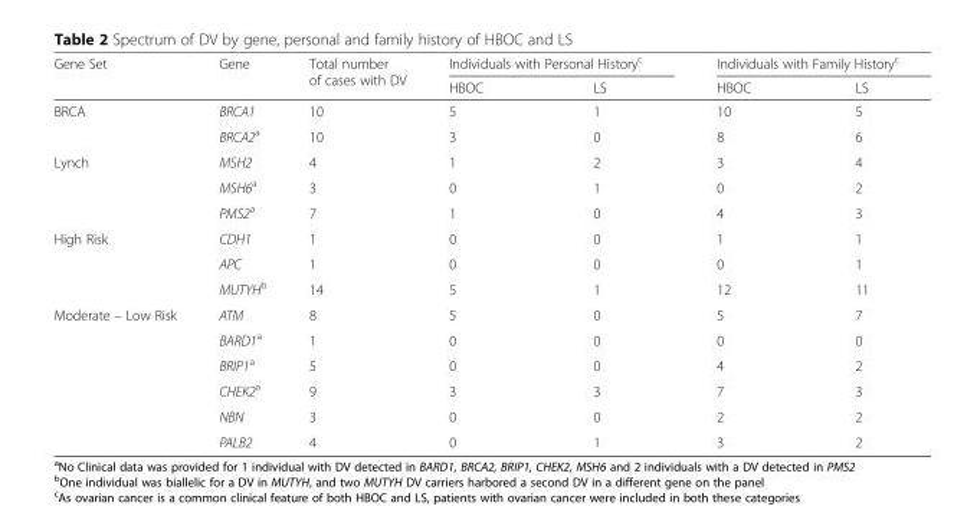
<table><thead><tr><td rowspan="2">Gene Set</td><td rowspan="2">Gene</td><td rowspan="2">Total number of cases with DV</td><td colspan="2">Individuals with Personal History<sup>c</sup></td><td colspan="2">Individuals with Family History<sup>c</sup></td></tr><tr><td>HBOC</td><td>LS</td><td>HBOC</td><td>LS</td></tr></thead><tbody><tr><td rowspan="2">BRCA</td><td>BRCA1</td><td>10</td><td>5</td><td>1</td><td>10</td><td>5</td></tr><tr><td>BRCA2<sup>a</sup></td><td>10</td><td>3</td><td>0</td><td>8</td><td>6</td></tr><tr><td rowspan="3">Lynch</td><td>MSH2</td><td>4</td><td>1</td><td>2</td><td>3</td><td>4</td></tr><tr><td>MSH6<sup>a</sup></td><td>3</td><td>0</td><td>1</td><td>0</td><td>2</td></tr><tr><td>PMS2<sup>a</sup></td><td>7</td><td>1</td><td>0</td><td>4</td><td>3</td></tr><tr><td rowspan="3">High Risk</td><td>CDH1</td><td>1</td><td>0</td><td>0</td><td>1</td><td>1</td></tr><tr><td>APC</td><td>1</td><td>0</td><td>0</td><td>0</td><td>1</td></tr><tr><td>MUTYH<sup>b</sup></td><td>14</td><td>5</td><td>1</td><td>12</td><td>11</td></tr><tr><td rowspan="6">Moderate – Low Risk</td><td>ATM</td><td>8</td><td>5</td><td>0</td><td>5</td><td>7</td></tr><tr><td>BARD1<sup>a</sup></td><td>1</td><td>0</td><td>0</td><td>0</td><td>0</td></tr><tr><td>BRIP1<sup>a</sup></td><td>5</td><td>0</td><td>0</td><td>4</td><td>2</td></tr><tr><td>CHEK2<sup>a</sup></td><td>9</td><td>3</td><td>3</td><td>7</td><td>3</td></tr><tr><td>NBN</td><td>3</td><td>0</td><td>0</td><td>2</td><td>2</td></tr><tr><td>PALB2</td><td>4</td><td>0</td><td>1</td><td>3</td><td>2</td></tr></tbody></table>